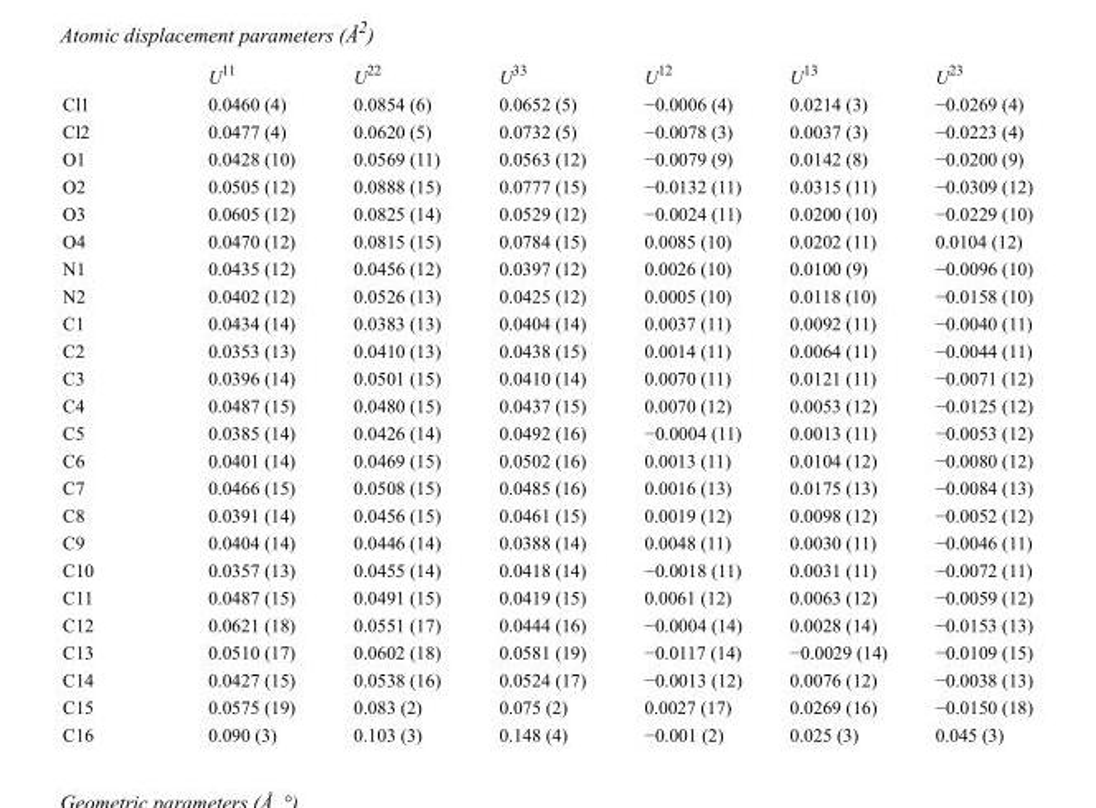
<table><thead><tr><td></td><td>U<sup>11</sup></td><td>U<sup>22</sup></td><td>U<sup>33</sup></td><td>U<sup>12</sup></td><td>U<sup>13</sup></td><td>U<sup>23</sup></td></tr></thead><tbody><tr><td>Cl1</td><td>0.0460 (4)</td><td>0.0854 (6)</td><td>0.0652 (5)</td><td>−0.0006 (4)</td><td>0.0214 (3)</td><td>−0.0269 (4)</td></tr><tr><td>Cl2</td><td>0.0477 (4)</td><td>0.0620 (5)</td><td>0.0732 (5)</td><td>−0.0078 (3)</td><td>0.0037 (3)</td><td>−0.0223 (4)</td></tr><tr><td>O1</td><td>0.0428 (10)</td><td>0.0569 (11)</td><td>0.0563 (12)</td><td>−0.0079 (9)</td><td>0.0142 (8)</td><td>−0.0200 (9)</td></tr><tr><td>O2</td><td>0.0505 (12)</td><td>0.0888 (15)</td><td>0.0777 (15)</td><td>−0.0132 (11)</td><td>0.0315 (11)</td><td>−0.0309 (12)</td></tr><tr><td>O3</td><td>0.0605 (12)</td><td>0.0825 (14)</td><td>0.0529 (12)</td><td>−0.0024 (11)</td><td>0.0200 (10)</td><td>−0.0229 (10)</td></tr><tr><td>O4</td><td>0.0470 (12)</td><td>0.0815 (15)</td><td>0.0784 (15)</td><td>0.0085 (10)</td><td>0.0202 (11)</td><td>0.0104 (12)</td></tr><tr><td>N1</td><td>0.0435 (12)</td><td>0.0456 (12)</td><td>0.0397 (12)</td><td>0.0026 (10)</td><td>0.0100 (9)</td><td>−0.0096 (10)</td></tr><tr><td>N2</td><td>0.0402 (12)</td><td>0.0526 (13)</td><td>0.0425 (12)</td><td>0.0005 (10)</td><td>0.0118 (10)</td><td>−0.0158 (10)</td></tr><tr><td>C1</td><td>0.0434 (14)</td><td>0.0383 (13)</td><td>0.0404 (14)</td><td>0.0037 (11)</td><td>0.0092 (11)</td><td>−0.0040 (11)</td></tr><tr><td>C2</td><td>0.0353 (13)</td><td>0.0410 (13)</td><td>0.0438 (15)</td><td>0.0014 (11)</td><td>0.0064 (11)</td><td>−0.0044 (11)</td></tr><tr><td>C3</td><td>0.0396 (14)</td><td>0.0501 (15)</td><td>0.0410 (14)</td><td>0.0070 (11)</td><td>0.0121 (11)</td><td>−0.0071 (12)</td></tr><tr><td>C4</td><td>0.0487 (15)</td><td>0.0480 (15)</td><td>0.0437 (15)</td><td>0.0070 (12)</td><td>0.0053 (12)</td><td>−0.0125 (12)</td></tr><tr><td>C5</td><td>0.0385 (14)</td><td>0.0426 (14)</td><td>0.0492 (16)</td><td>−0.0004 (11)</td><td>0.0013 (11)</td><td>−0.0053 (12)</td></tr><tr><td>C6</td><td>0.0401 (14)</td><td>0.0469 (15)</td><td>0.0502 (16)</td><td>0.0013 (11)</td><td>0.0104 (12)</td><td>−0.0080 (12)</td></tr><tr><td>C7</td><td>0.0466 (15)</td><td>0.0508 (15)</td><td>0.0485 (16)</td><td>0.0016 (13)</td><td>0.0175 (13)</td><td>−0.0084 (13)</td></tr><tr><td>C8</td><td>0.0391 (14)</td><td>0.0456 (15)</td><td>0.0461 (15)</td><td>0.0019 (12)</td><td>0.0098 (12)</td><td>−0.0052 (12)</td></tr><tr><td>C9</td><td>0.0404 (14)</td><td>0.0446 (14)</td><td>0.0388 (14)</td><td>0.0048 (11)</td><td>0.0030 (11)</td><td>−0.0046 (11)</td></tr><tr><td>C10</td><td>0.0357 (13)</td><td>0.0455 (14)</td><td>0.0418 (14)</td><td>−0.0018 (11)</td><td>0.0031 (11)</td><td>−0.0072 (11)</td></tr><tr><td>C11</td><td>0.0487 (15)</td><td>0.0491 (15)</td><td>0.0419 (15)</td><td>0.0061 (12)</td><td>0.0063 (12)</td><td>−0.0059 (12)</td></tr><tr><td>C12</td><td>0.0621 (18)</td><td>0.0551 (17)</td><td>0.0444 (16)</td><td>−0.0004 (14)</td><td>0.0028 (14)</td><td>−0.0153 (13)</td></tr><tr><td>C13</td><td>0.0510 (17)</td><td>0.0602 (18)</td><td>0.0581 (19)</td><td>−0.0117 (14)</td><td>−0.0029 (14)</td><td>−0.0109 (15)</td></tr><tr><td>C14</td><td>0.0427 (15)</td><td>0.0538 (16)</td><td>0.0524 (17)</td><td>−0.0013 (12)</td><td>0.0076 (12)</td><td>−0.0038 (13)</td></tr><tr><td>C15</td><td>0.0575 (19)</td><td>0.083 (2)</td><td>0.075 (2)</td><td>0.0027 (17)</td><td>0.0269 (16)</td><td>−0.0150 (18)</td></tr><tr><td>C16</td><td>0.090 (3)</td><td>0.103 (3)</td><td>0.148 (4)</td><td>−0.001 (2)</td><td>0.025 (3)</td><td>0.045 (3)</td></tr></tbody></table>